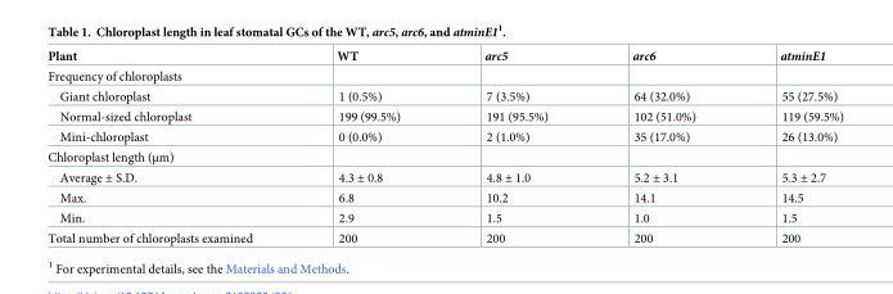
<table><thead><tr><td>Plant</td><td>WT</td><td>arc5</td><td>arc6</td><td>atminE1</td></tr></thead><tbody><tr><td colspan="5">Frequency of chloroplasts</td></tr><tr><td>Giant chloroplast</td><td>1 (0.5%)</td><td>7 (3.5%)</td><td>64 (32.0%)</td><td>55 (27.5%)</td></tr><tr><td>Normal-sized chloroplast</td><td>199 (99.5%)</td><td>191 (95.5%)</td><td>102 (51.0%)</td><td>119 (59.5%)</td></tr><tr><td>Mini-chloroplast</td><td>0 (0.0%)</td><td>2 (1.0%)</td><td>35 (17.0%)</td><td>26 (13.0%)</td></tr><tr><td colspan="5">Chloroplast length (μm)</td></tr><tr><td>Average ± S.D.</td><td>4.3 ± 0.8</td><td>4.8 ± 1.0</td><td>5.2 ± 3.1</td><td>5.3 ± 2.7</td></tr><tr><td>Max.</td><td>6.8</td><td>10.2</td><td>14.1</td><td>14.5</td></tr><tr><td>Min.</td><td>2.9</td><td>1.5</td><td>1.0</td><td>1.5</td></tr><tr><td>Total number of chloroplasts examined</td><td>200</td><td>200</td><td>200</td><td>200</td></tr></tbody></table>